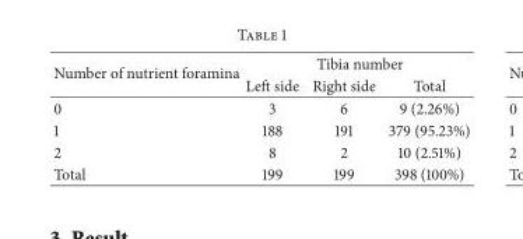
<table><thead><tr><td rowspan="2">Number of nutrient foramina</td><td colspan="3">Tibia number</td></tr><tr><td>Left side</td><td>Right side</td><td>Total</td></tr></thead><tbody><tr><td>0</td><td>3</td><td>6</td><td>9 (2.26%)</td></tr><tr><td>1</td><td>188</td><td>191</td><td>379 (95.23%)</td></tr><tr><td>2</td><td>8</td><td>2</td><td>10 (2.51%)</td></tr><tr><td>Total</td><td>199</td><td>199</td><td>398 (100%)</td></tr></tbody></table>